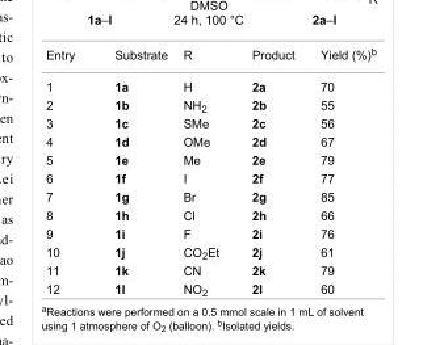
<table><tbody><tr><td>Entry</td><td>Substrate</td><td>R</td><td>Product</td><td>Yield (%)<sup>b</sup></td></tr><tr><td>1</td><td>1a</td><td>H</td><td>2a</td><td>70</td></tr><tr><td>2</td><td>1b</td><td>NH<sub>2</sub></td><td>2b</td><td>55</td></tr><tr><td>3</td><td>1c</td><td>SMe</td><td>2c</td><td>56</td></tr><tr><td>4</td><td>1d</td><td>OMe</td><td>2d</td><td>67</td></tr><tr><td>5</td><td>1e</td><td>Me</td><td>2e</td><td>79</td></tr><tr><td>6</td><td>1f</td><td>I</td><td>2f</td><td>77</td></tr><tr><td>7</td><td>1g</td><td>Br</td><td>2g</td><td>85</td></tr><tr><td>8</td><td>1h</td><td>Cl</td><td>2h</td><td>66</td></tr><tr><td>9</td><td>1i</td><td>F</td><td>2i</td><td>76</td></tr><tr><td>10</td><td>1j</td><td>CO<sub>2</sub>Et</td><td>2j</td><td>61</td></tr><tr><td>11</td><td>1k</td><td>CN</td><td>2k</td><td>79</td></tr><tr><td>12</td><td>1l</td><td>NO<sub>2</sub></td><td>2l</td><td>60</td></tr></tbody></table>